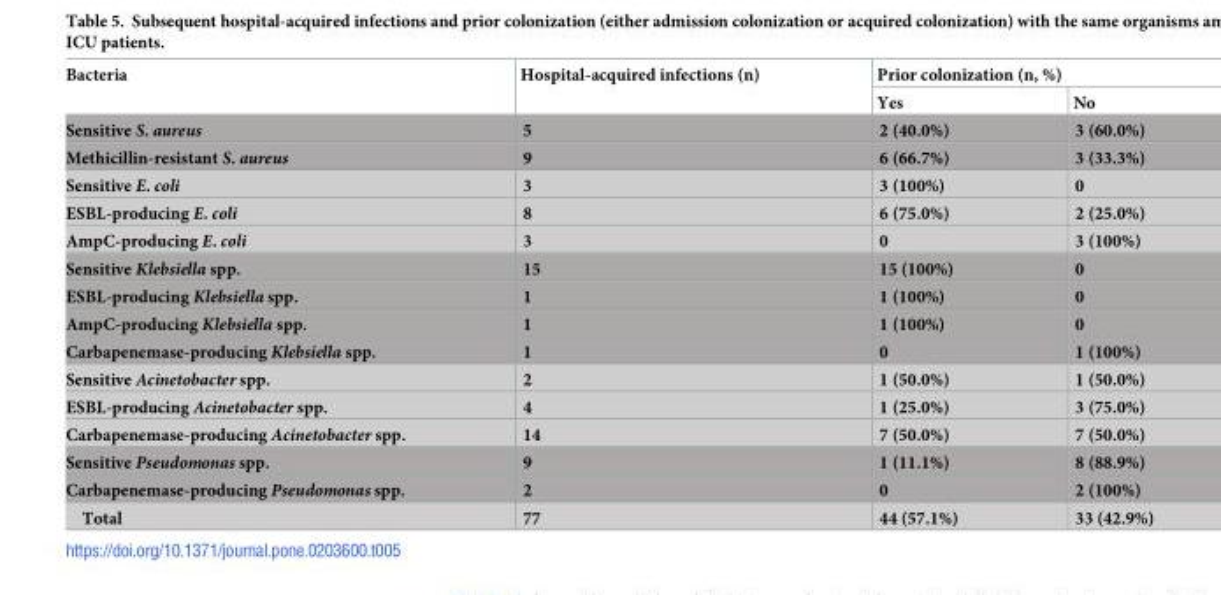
<table><thead><tr><td rowspan="2">Bacteria</td><td rowspan="2">Hospital-acquired infections (n)</td><td colspan="2">Prior colonization (n, %)</td></tr><tr><td>Yes</td><td>No</td></tr></thead><tbody><tr><td>Sensitive S. aureus</td><td>5</td><td>2 (40.0%)</td><td>3 (60.0%)</td></tr><tr><td>Methicillin-resistant S. aureus</td><td>9</td><td>6 (66.7%)</td><td>3 (33.3%)</td></tr><tr><td>Sensitive E. coli</td><td>3</td><td>3 (100%)</td><td>0</td></tr><tr><td>ESBL-producing E. coli</td><td>8</td><td>6 (75.0%)</td><td>2 (25.0%)</td></tr><tr><td>AmpC-producing E. coli</td><td>3</td><td>0</td><td>3 (100%)</td></tr><tr><td>Sensitive Klebsiella spp.</td><td>15</td><td>15 (100%)</td><td>0</td></tr><tr><td>ESBL-producing Klebsiella spp.</td><td>1</td><td>1 (100%)</td><td>0</td></tr><tr><td>AmpC-producing Klebsiella spp.</td><td>1</td><td>1 (100%)</td><td>0</td></tr><tr><td>Carbapenemase-producing Klebsiella spp.</td><td>1</td><td>0</td><td>1 (100%)</td></tr><tr><td>Sensitive Acinetobacter spp.</td><td>2</td><td>1 (50.0%)</td><td>1 (50.0%)</td></tr><tr><td>ESBL-producing Acinetobacter spp.</td><td>4</td><td>1 (25.0%)</td><td>3 (75.0%)</td></tr><tr><td>Carbapenemase-producing Acinetobacter spp.</td><td>14</td><td>7 (50.0%)</td><td>7 (50.0%)</td></tr><tr><td>Sensitive Pseudomonas spp.</td><td>9</td><td>1 (11.1%)</td><td>8 (88.9%)</td></tr><tr><td>Carbapenemase-producing Pseudomonas spp.</td><td>2</td><td>0</td><td>2 (100%)</td></tr><tr><td>Total</td><td>77</td><td>44 (57.1%)</td><td>33 (42.9%)</td></tr></tbody></table>